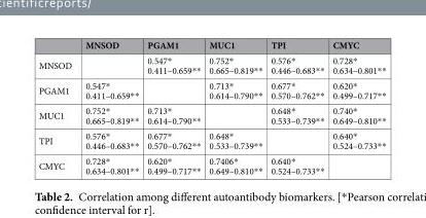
<table><thead><tr><td></td><td>MNSOD</td><td>PGAM1</td><td>MUC1</td><td>TPI</td><td>CMYC</td></tr></thead><tbody><tr><td>MNSOD</td><td></td><td>0.547* 0.411–0.659**</td><td>0.752* 0.665–0.819**</td><td>0.576* 0.446–0.683**</td><td>0.728* 0.634–0.801**</td></tr><tr><td>PGAM1</td><td>0.547* 0.411–0.659**</td><td></td><td>0.713* 0.614–0.790**</td><td>0.677* 0.570–0.762**</td><td>0.620* 0.499–0.717**</td></tr><tr><td>MUC1</td><td>0.752* 0.665–0.819**</td><td>0.713* 0.614–0.790**</td><td></td><td>0.648* 0.533–0.739**</td><td>0.740* 0.649–0.810**</td></tr><tr><td>TPI</td><td>0.576* 0.446–0.683**</td><td>0.677* 0.570–0.762**</td><td>0.648* 0.533–0.739**</td><td></td><td>0.640* 0.524–0.733**</td></tr><tr><td>CMYC</td><td>0.728* 0.634–0.801**</td><td>0.620* 0.499–0.717**</td><td>0.7406* 0.649–0.810**</td><td>0.640* 0.524–0.733**</td><td></td></tr></tbody></table>